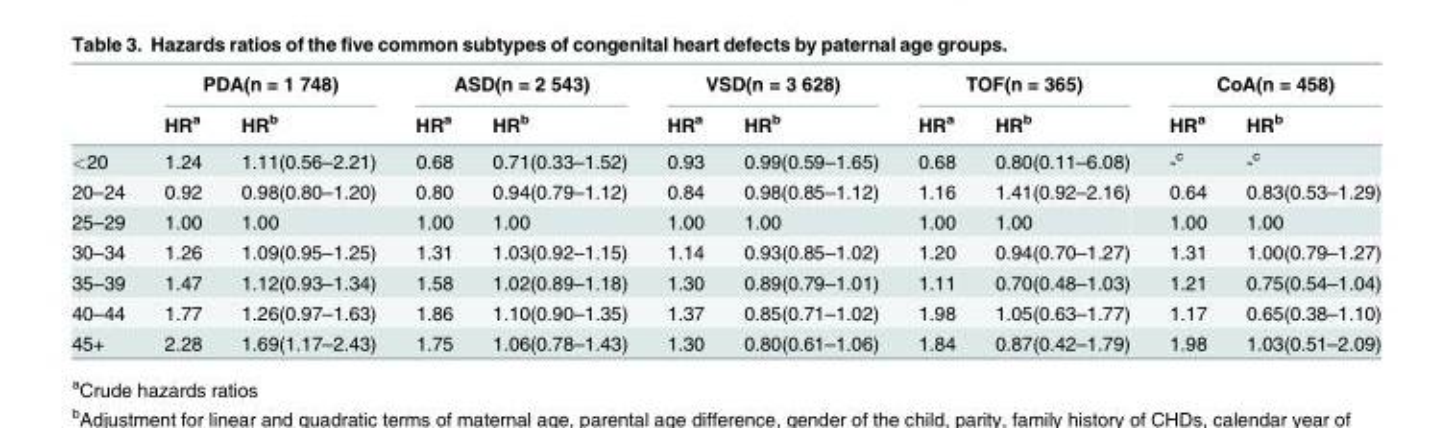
<table><thead><tr><td rowspan="2"></td><td colspan="2">PDA(n = 1 748)</td><td colspan="2">ASD(n = 2 543)</td><td colspan="2">VSD(n = 3 628)</td><td colspan="2">TOF(n = 365)</td><td colspan="2">CoA(n = 458)</td></tr><tr><td>HR<sup>a</sup></td><td>HR<sup>b</sup></td><td>HR<sup>a</sup></td><td>HR<sup>b</sup></td><td>HR<sup>a</sup></td><td>HR<sup>b</sup></td><td>HR<sup>a</sup></td><td>HR<sup>b</sup></td><td>HR<sup>a</sup></td><td>HR<sup>b</sup></td></tr></thead><tbody><tr><td>&lt;20</td><td>1.24</td><td>1.11(0.56–2.21)</td><td>0.68</td><td>0.71(0.33–1.52)</td><td>0.93</td><td>0.99(0.59–1.65)</td><td>0.68</td><td>0.80(0.11–6.08)</td><td>-<sup>c</sup></td><td>-<sup>c</sup></td></tr><tr><td>20–24</td><td>0.92</td><td>0.98(0.80–1.20)</td><td>0.80</td><td>0.94(0.79–1.12)</td><td>0.84</td><td>0.98(0.85–1.12)</td><td>1.16</td><td>1.41(0.92–2.16)</td><td>0.64</td><td>0.83(0.53–1.29)</td></tr><tr><td>25–29</td><td>1.00</td><td>1.00</td><td>1.00</td><td>1.00</td><td>1.00</td><td>1.00</td><td>1.00</td><td>1.00</td><td>1.00</td><td>1.00</td></tr><tr><td>30–34</td><td>1.26</td><td>1.09(0.95–1.25)</td><td>1.31</td><td>1.03(0.92–1.15)</td><td>1.14</td><td>0.93(0.85–1.02)</td><td>1.20</td><td>0.94(0.70–1.27)</td><td>1.31</td><td>1.00(0.79–1.27)</td></tr><tr><td>35–39</td><td>1.47</td><td>1.12(0.93–1.34)</td><td>1.58</td><td>1.02(0.89–1.18)</td><td>1.30</td><td>0.89(0.79–1.01)</td><td>1.11</td><td>0.70(0.48–1.03)</td><td>1.21</td><td>0.75(0.54–1.04)</td></tr><tr><td>40–44</td><td>1.77</td><td>1.26(0.97–1.63)</td><td>1.86</td><td>1.10(0.90–1.35)</td><td>1.37</td><td>0.85(0.71–1.02)</td><td>1.98</td><td>1.05(0.63–1.77)</td><td>1.17</td><td>0.65(0.38–1.10)</td></tr><tr><td>45+</td><td>2.28</td><td>1.69(1.17–2.43)</td><td>1.75</td><td>1.06(0.78–1.43)</td><td>1.30</td><td>0.80(0.61–1.06)</td><td>1.84</td><td>0.87(0.42–1.79)</td><td>1.98</td><td>1.03(0.51–2.09)</td></tr></tbody></table>